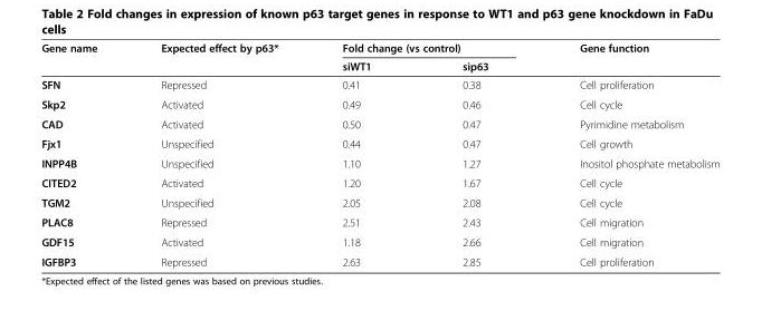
<table><thead><tr><td rowspan="2">Gene name</td><td rowspan="2">Expected effect by p63*</td><td colspan="2">Fold change (vs control)</td><td rowspan="2">Gene function</td></tr><tr><td>siWT1</td><td>sip63</td></tr></thead><tbody><tr><td>SFN</td><td>Repressed</td><td>0.41</td><td>0.38</td><td>Cell proliferation</td></tr><tr><td>Skp2</td><td>Activated</td><td>0.49</td><td>0.46</td><td>Cell cycle</td></tr><tr><td>CAD</td><td>Activated</td><td>0.50</td><td>0.47</td><td>Pyrimidine metabolism</td></tr><tr><td>Fjx1</td><td>Unspecified</td><td>0.44</td><td>0.47</td><td>Cell growth</td></tr><tr><td>INPP4B</td><td>Unspecified</td><td>1.10</td><td>1.27</td><td>Inositol phosphate metabolism</td></tr><tr><td>CITED2</td><td>Activated</td><td>1.20</td><td>1.67</td><td>Cell cycle</td></tr><tr><td>TGM2</td><td>Unspecified</td><td>2.05</td><td>2.08</td><td>Cell cycle</td></tr><tr><td>PLAC8</td><td>Repressed</td><td>2.51</td><td>2.43</td><td>Cell migration</td></tr><tr><td>GDF15</td><td>Activated</td><td>1.18</td><td>2.66</td><td>Cell migration</td></tr><tr><td>IGFBP3</td><td>Repressed</td><td>2.63</td><td>2.85</td><td>Cell proliferation</td></tr></tbody></table>